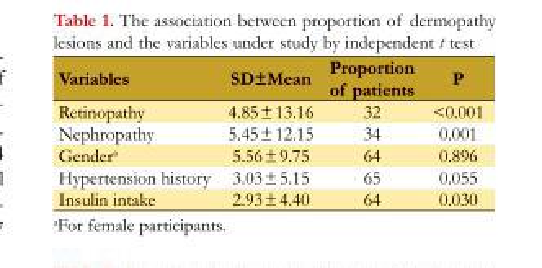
<table><tbody><tr><td>Variables</td><td>SD±Mean</td><td>Proportion of patients</td><td>P</td></tr><tr><td>Retinopathy</td><td>4.85 ± 13.16</td><td>32</td><td>&lt;0.001</td></tr><tr><td>Nephropathy</td><td>5.45 ± 12.15</td><td>34</td><td>0.001</td></tr><tr><td>Gender<sup>a</sup></td><td>5.56 ± 9.75</td><td>64</td><td>0.896</td></tr><tr><td>Hypertension history</td><td>3.03 ± 5.15</td><td>65</td><td>0.055</td></tr><tr><td>Insulin intake</td><td>2.93 ± 4.40</td><td>64</td><td>0.030</td></tr></tbody></table>